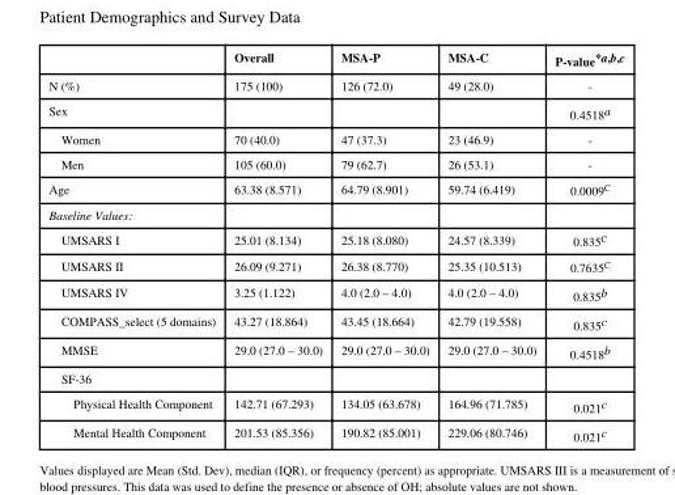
<table><thead><tr><td></td><td>Overall</td><td>MSA-P</td><td>MSA-C</td><td>P-value*<sup>a</sup>,<sup>b</sup>,<sup>c</sup></td></tr></thead><tbody><tr><td>N (%)</td><td>175 (100)</td><td>126 (72.0)</td><td>49 (28.0)</td><td>-</td></tr><tr><td>Sex</td><td></td><td></td><td></td><td>0.4518<sup>a</sup></td></tr><tr><td>Women</td><td>70 (40.0)</td><td>47 (37.3)</td><td>23 (46.9)</td><td>-</td></tr><tr><td>Men</td><td>105 (60.0)</td><td>79 (62.7)</td><td>26 (53.1)</td><td>-</td></tr><tr><td>Age</td><td>63.38 (8.571)</td><td>64.79 (8.901)</td><td>59.74 (6.419)</td><td>0.0009<sup>C</sup></td></tr><tr><td colspan="5">Baseline Values:</td></tr><tr><td>UMSARS I</td><td>25.01 (8.134)</td><td>25.18 (8.080)</td><td>24.57 (8.339)</td><td>0.835<sup>C</sup></td></tr><tr><td>UMSARS II</td><td>26.09 (9.271)</td><td>26.38 (8.770)</td><td>25.35 (10.513)</td><td>0.7635<sup>C</sup></td></tr><tr><td>UMSARS IV</td><td>3.25 (1.122)</td><td>4.0 (2.0 – 4.0)</td><td>4.0 (2.0 – 4.0)</td><td>0.835<sup>b</sup></td></tr><tr><td>COMPASS_select (5 domains)</td><td>43.27 (18.864)</td><td>43.45 (18.664)</td><td>42.79 (19.558)</td><td>0.835<sup>c</sup></td></tr><tr><td>MMSE</td><td>29.0 (27.0 – 30.0)</td><td>29.0 (27.0 – 30.0)</td><td>29.0 (27.0 – 30.0)</td><td>0.4518<sup>b</sup></td></tr><tr><td colspan="5">SF-36</td></tr><tr><td>Physical Health Component</td><td>142.71 (67.293)</td><td>134.05 (63.678)</td><td>164.96 (71.785)</td><td>0.021<sup>c</sup></td></tr><tr><td>Mental Health Component</td><td>201.53 (85.356)</td><td>190.82 (85.001)</td><td>229.06 (80.746)</td><td>0.021<sup>c</sup></td></tr></tbody></table>